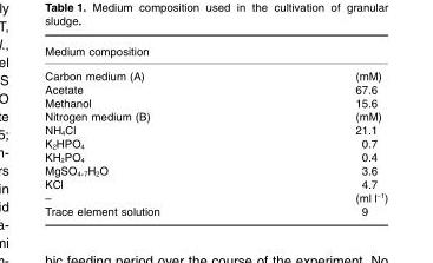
<table><thead><tr><td>Medium composition</td><td></td></tr></thead><tbody><tr><td>Carbon medium (A)</td><td>(mM)</td></tr><tr><td>Acetate</td><td>67.6</td></tr><tr><td>Methanol</td><td>15.6</td></tr><tr><td>Nitrogen medium (B)</td><td>(mM)</td></tr><tr><td>NH<sub>4</sub>Cl</td><td>21.1</td></tr><tr><td>K<sub>2</sub>HPO<sub>4</sub></td><td>0.7</td></tr><tr><td>KH<sub>2</sub>PO<sub>4</sub></td><td>0.4</td></tr><tr><td>MgSO<sub>4</sub>.<sub>7</sub>H<sub>2</sub>O</td><td>3.6</td></tr><tr><td>KCl</td><td>4.7</td></tr><tr><td>–</td><td>(ml l<sup>−1</sup>)</td></tr><tr><td>Trace element solution</td><td>9</td></tr></tbody></table>